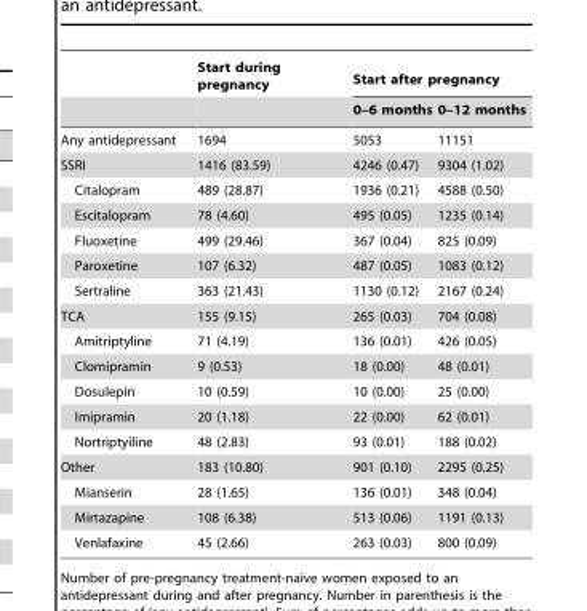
<table><thead><tr><td rowspan="2"></td><td rowspan="2">Start during pregnancy</td><td colspan="2">Start after pregnancy</td></tr><tr><td>0–6 months</td><td>0–12 months</td></tr></thead><tbody><tr><td>Any antidepressant</td><td>1694</td><td>5053</td><td>11151</td></tr><tr><td>SSRI</td><td>1416 (83.59)</td><td>4246 (0.47)</td><td>9304 (1.02)</td></tr><tr><td>Citalopram</td><td>489 (28.87)</td><td>1936 (0.21)</td><td>4588 (0.50)</td></tr><tr><td>Escitalopram</td><td>78 (4.60)</td><td>495 (0.05)</td><td>1235 (0.14)</td></tr><tr><td>Fluoxetine</td><td>499 (29.46)</td><td>367 (0.04)</td><td>825 (0.09)</td></tr><tr><td>Paroxetine</td><td>107 (6.32)</td><td>487 (0.05)</td><td>1083 (0.12)</td></tr><tr><td>Sertraline</td><td>363 (21.43)</td><td>1130 (0.12)</td><td>2167 (0.24)</td></tr><tr><td>TCA</td><td>155 (9.15)</td><td>265 (0.03)</td><td>704 (0.08)</td></tr><tr><td>Amitriptyline</td><td>71 (4.19)</td><td>136 (0.01)</td><td>426 (0.05)</td></tr><tr><td>Clomipramin</td><td>9 (0.53)</td><td>18 (0.00)</td><td>48 (0.01)</td></tr><tr><td>Dosulepin</td><td>10 (0.59)</td><td>10 (0.00)</td><td>25 (0.00)</td></tr><tr><td>Imipramin</td><td>20 (1.18)</td><td>22 (0.00)</td><td>62 (0.01)</td></tr><tr><td>Nortriptyiline</td><td>48 (2.83)</td><td>93 (0.01)</td><td>188 (0.02)</td></tr><tr><td>Other</td><td>183 (10.80)</td><td>901 (0.10)</td><td>2295 (0.25)</td></tr><tr><td>Mianserin</td><td>28 (1.65)</td><td>136 (0.01)</td><td>348 (0.04)</td></tr><tr><td>Mirtazapine</td><td>108 (6.38)</td><td>513 (0.06)</td><td>1191 (0.13)</td></tr><tr><td>Venlafaxine</td><td>45 (2.66)</td><td>263 (0.03)</td><td>800 (0.09)</td></tr></tbody></table>